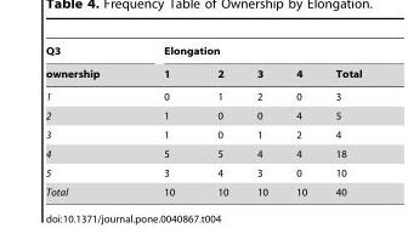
<table><thead><tr><td rowspan="2">Q3 ownership</td><td colspan="5">Elongation</td></tr><tr><td>1</td><td>2</td><td>3</td><td>4</td><td>Total</td></tr></thead><tbody><tr><td>1</td><td>0</td><td>1</td><td>2</td><td>0</td><td>3</td></tr><tr><td>2</td><td>1</td><td>0</td><td>0</td><td>4</td><td>5</td></tr><tr><td>3</td><td>1</td><td>0</td><td>1</td><td>2</td><td>4</td></tr><tr><td>4</td><td>5</td><td>5</td><td>4</td><td>4</td><td>18</td></tr><tr><td>5</td><td>3</td><td>4</td><td>3</td><td>0</td><td>10</td></tr><tr><td>Total</td><td>10</td><td>10</td><td>10</td><td>10</td><td>40</td></tr></tbody></table>